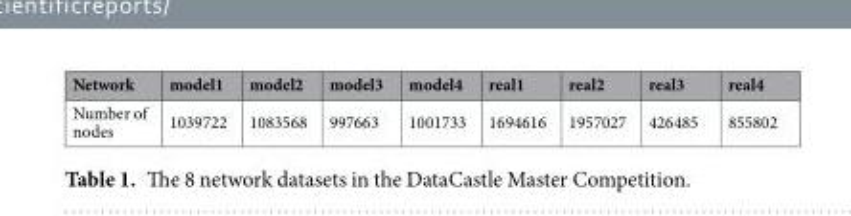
<table><thead><tr><td>Network</td><td>model1</td><td>model2</td><td>model3</td><td>model4</td><td>real1</td><td>real2</td><td>real3</td><td>real4</td></tr></thead><tbody><tr><td>Number of nodes</td><td>1039722</td><td>1083568</td><td>997663</td><td>1001733</td><td>1694616</td><td>1957027</td><td>426485</td><td>855802</td></tr></tbody></table>